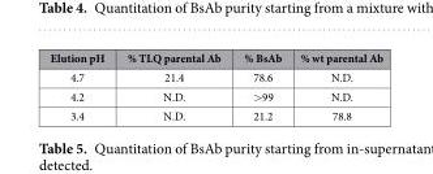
<table><thead><tr><td>Elution pH</td><td>% TLQ parental Ab</td><td>% BsAb</td><td>% wt parental Ab</td></tr></thead><tbody><tr><td>4.7</td><td>21.4</td><td>78.6</td><td>N.D.</td></tr><tr><td>4.2</td><td>N.D.</td><td>&gt;99</td><td>N.D.</td></tr><tr><td>3.4</td><td>N.D.</td><td>21.2</td><td>78.8</td></tr></tbody></table>